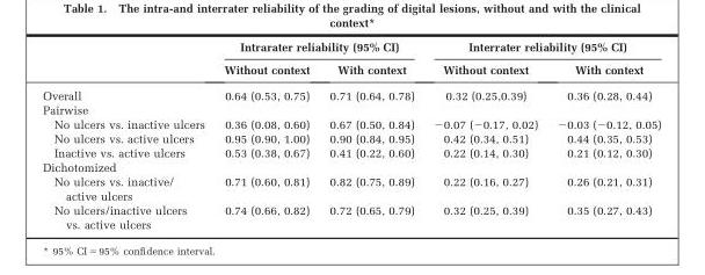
<table><thead><tr><td rowspan="2"></td><td colspan="2">Intrarater reliability (95% CI)</td><td colspan="2">Interrater reliability (95% CI)</td></tr><tr><td>Without context</td><td>With context</td><td>Without context</td><td>With context</td></tr></thead><tbody><tr><td>Overall</td><td>0.64 (0.53, 0.75)</td><td>0.71 (0.64, 0.78)</td><td>0.32 (0.25,0.39)</td><td>0.36 (0.28, 0.44)</td></tr><tr><td colspan="5">Pairwise</td></tr><tr><td>No ulcers vs. inactive ulcers</td><td>0.36 (0.08, 0.60)</td><td>0.67 (0.50, 0.84)</td><td>−0.07 (−0.17, 0.02)</td><td>−0.03 (−0.12, 0.05)</td></tr><tr><td>No ulcers vs. active ulcers</td><td>0.95 (0.90, 1.00)</td><td>0.90 (0.84, 0.95)</td><td>0.42 (0.34, 0.51)</td><td>0.44 (0.35, 0.53)</td></tr><tr><td>Inactive vs. active ulcers</td><td>0.53 (0.38, 0.67)</td><td>0.41 (0.22, 0.60)</td><td>0.22 (0.14, 0.30)</td><td>0.21 (0.12, 0.30)</td></tr><tr><td colspan="5">Dichotomized</td></tr><tr><td>No ulcers vs. inactive/ active ulcers</td><td>0.71 (0.60, 0.81)</td><td>0.82 (0.75, 0.89)</td><td>0.22 (0.16, 0.27)</td><td>0.26 (0.21, 0.31)</td></tr><tr><td>No ulcers/inactive ulcers vs. active ulcers</td><td>0.74 (0.66, 0.82)</td><td>0.72 (0.65, 0.79)</td><td>0.32 (0.25, 0.39)</td><td>0.35 (0.27, 0.43)</td></tr></tbody></table>